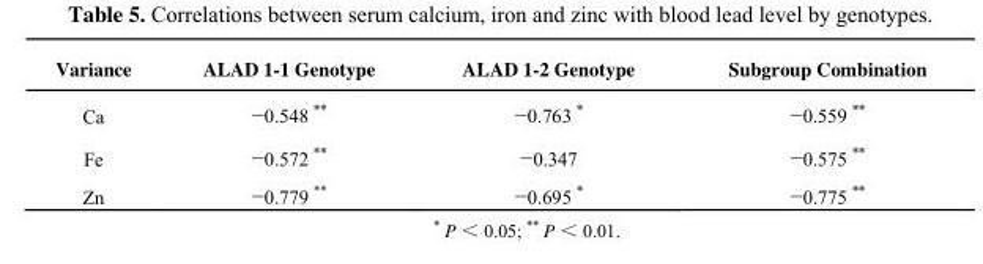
<table><thead><tr><td>Variance</td><td>ALAD 1-1 Genotype</td><td>ALAD 1-2 Genotype</td><td>Subgroup Combination</td></tr></thead><tbody><tr><td>Ca</td><td>−0.548 **</td><td>−0.763 *</td><td>−0.559 **</td></tr><tr><td>Fe</td><td>−0.572 **</td><td>−0.347</td><td>−0.575 **</td></tr><tr><td>Zn</td><td>−0.779 **</td><td>−0.695 *</td><td>−0.775 **</td></tr></tbody></table>